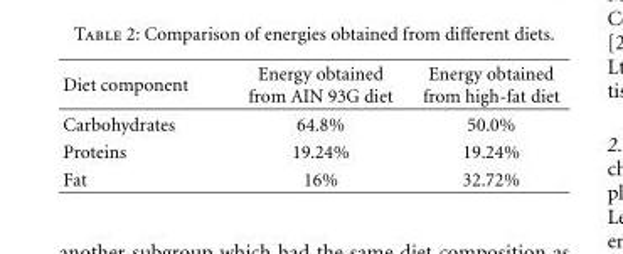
<table><thead><tr><td>Diet component</td><td>Energy obtained from AIN 93G diet</td><td>Energy obtained from high-fat diet</td></tr></thead><tbody><tr><td>Carbohydrates</td><td>64.8%</td><td>50.0%</td></tr><tr><td>Proteins</td><td>19.24%</td><td>19.24%</td></tr><tr><td>Fat</td><td>16%</td><td>32.72%</td></tr></tbody></table>